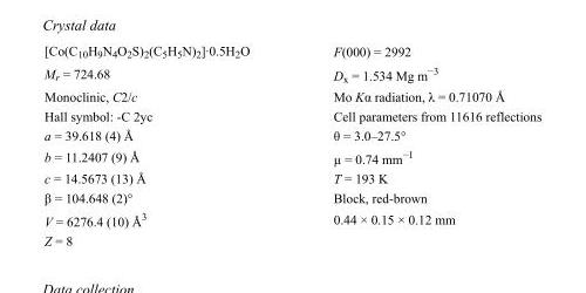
<table><tbody><tr><td>[Co(C<sub>10</sub>H<sub>9</sub>N<sub>4</sub>O<sub>2</sub>S)<sub>2</sub>(C<sub>5</sub>H<sub>5</sub>N)<sub>2</sub>]·0.5H<sub>2</sub>O</td><td>F(000) = 2992</td></tr><tr><td>M<sub>r</sub> = 724.68</td><td>D<sub>x</sub> = 1.534 Mg m<sup>−3</sup></td></tr><tr><td>Monoclinic, C2/c</td><td>Mo Kα radiation, λ = 0.71070 Å</td></tr><tr><td>Hall symbol: -C 2yc</td><td>Cell parameters from 11616 reflections</td></tr><tr><td>a = 39.618 (4) Å</td><td>θ = 3.0–27.5°</td></tr><tr><td>b = 11.2407 (9) Å</td><td>µ = 0.74 mm<sup>−1</sup></td></tr><tr><td>c = 14.5673 (13) Å</td><td>T = 193 K</td></tr><tr><td>β = 104.648 (2)°</td><td>Block, red-brown</td></tr><tr><td>V = 6276.4 (10) Å<sup>3</sup></td><td>0.44 × 0.15 × 0.12 mm</td></tr><tr><td>Z = 8</td><td></td></tr></tbody></table>